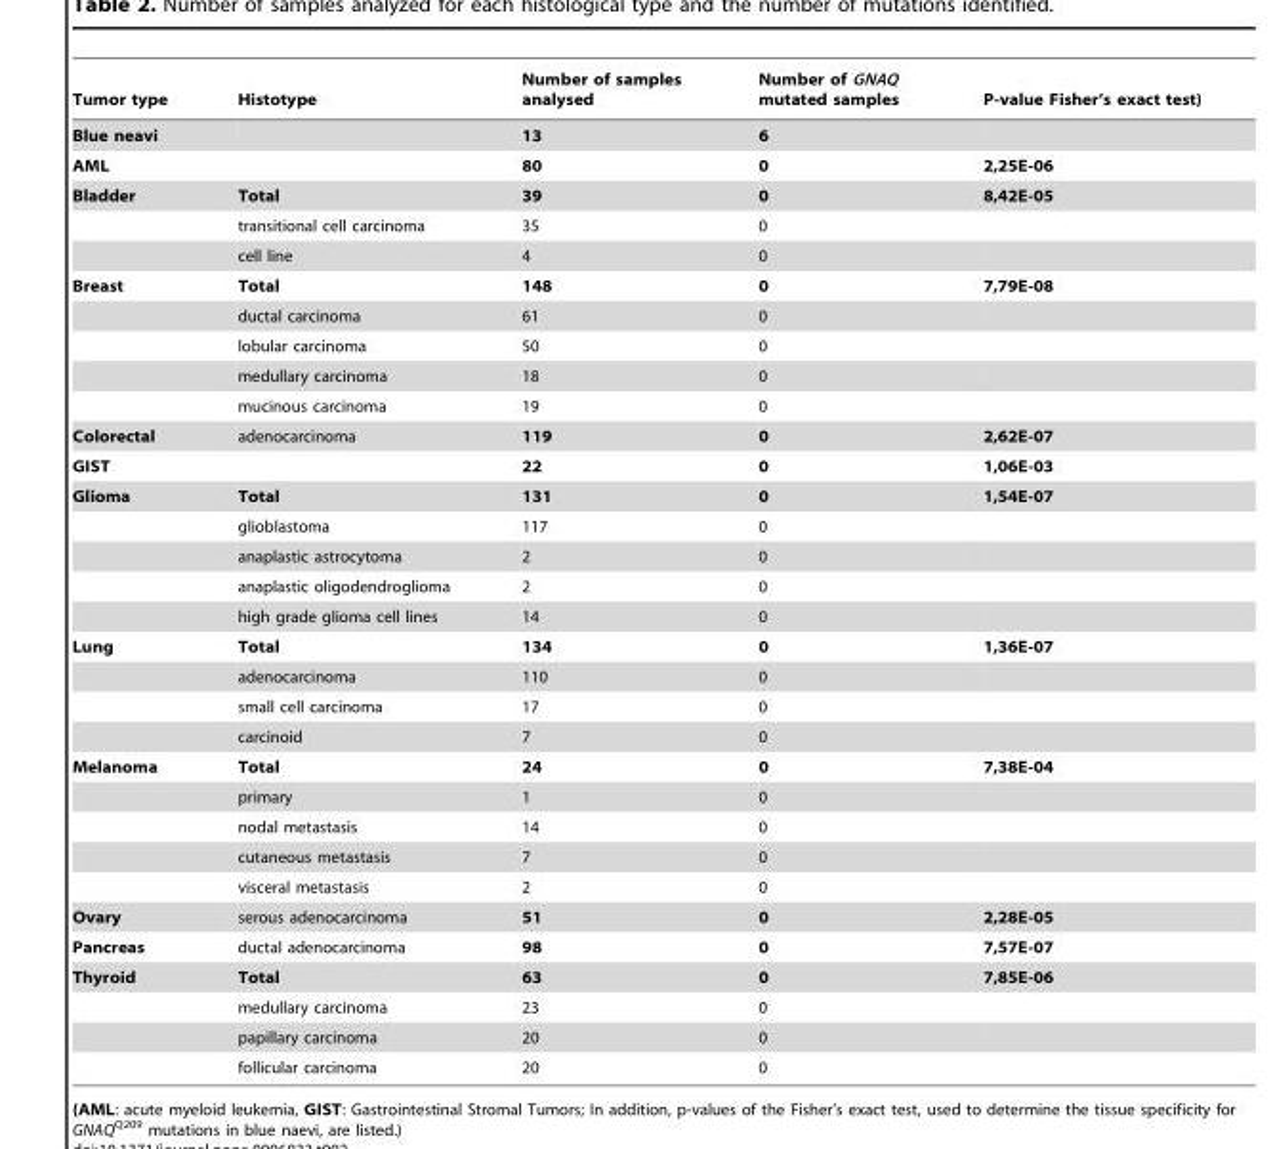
<table><thead><tr><td>Tumor type</td><td>Histotype</td><td>Number of samples analysed</td><td>Number of GNAQ mutated samples</td><td>P-value Fisher’s exact test)</td></tr></thead><tbody><tr><td>Blue neavi</td><td></td><td>13</td><td>6</td><td></td></tr><tr><td>AML</td><td></td><td>80</td><td>0</td><td>2,25E-06</td></tr><tr><td rowspan="3">Bladder</td><td>Total</td><td>39</td><td>0</td><td>8,42E-05</td></tr><tr><td>transitional cell carcinoma</td><td>35</td><td>0</td><td></td></tr><tr><td>cell line</td><td>4</td><td>0</td><td></td></tr><tr><td rowspan="5">Breast</td><td>Total</td><td>148</td><td>0</td><td>7,79E-08</td></tr><tr><td>ductal carcinoma</td><td>61</td><td>0</td><td></td></tr><tr><td>lobular carcinoma</td><td>50</td><td>0</td><td></td></tr><tr><td>medullary carcinoma</td><td>18</td><td>0</td><td></td></tr><tr><td>mucinous carcinoma</td><td>19</td><td>0</td><td></td></tr><tr><td>Colorectal</td><td>adenocarcinoma</td><td>119</td><td>0</td><td>2,62E-07</td></tr><tr><td>GIST</td><td></td><td>22</td><td>0</td><td>1,06E-03</td></tr><tr><td rowspan="5">Glioma</td><td>Total</td><td>131</td><td>0</td><td>1,54E-07</td></tr><tr><td>glioblastoma</td><td>117</td><td>0</td><td></td></tr><tr><td>anaplastic astrocytoma</td><td>2</td><td>0</td><td></td></tr><tr><td>anaplastic oligodendroglioma</td><td>2</td><td>0</td><td></td></tr><tr><td>high grade glioma cell lines</td><td>14</td><td>0</td><td></td></tr><tr><td rowspan="4">Lung</td><td>Total</td><td>134</td><td>0</td><td>1,36E-07</td></tr><tr><td>adenocarcinoma</td><td>110</td><td>0</td><td></td></tr><tr><td>small cell carcinoma</td><td>17</td><td>0</td><td></td></tr><tr><td>carcinoid</td><td>7</td><td>0</td><td></td></tr><tr><td rowspan="5">Melanoma</td><td>Total</td><td>24</td><td>0</td><td>7,38E-04</td></tr><tr><td>primary</td><td>1</td><td>0</td><td></td></tr><tr><td>nodal metastasis</td><td>14</td><td>0</td><td></td></tr><tr><td>cutaneous metastasis</td><td>7</td><td>0</td><td></td></tr><tr><td>visceral metastasis</td><td>2</td><td>0</td><td></td></tr><tr><td>Ovary</td><td>serous adenocarcinoma</td><td>51</td><td>0</td><td>2,28E-05</td></tr><tr><td>Pancreas</td><td>ductal adenocarcinoma</td><td>98</td><td>0</td><td>7,57E-07</td></tr><tr><td rowspan="4">Thyroid</td><td>Total</td><td>63</td><td>0</td><td>7,85E-06</td></tr><tr><td>medullary carcinoma</td><td>23</td><td>0</td><td></td></tr><tr><td>papillary carcinoma</td><td>20</td><td>0</td><td></td></tr><tr><td>follicular carcinoma</td><td>20</td><td>0</td><td></td></tr></tbody></table>